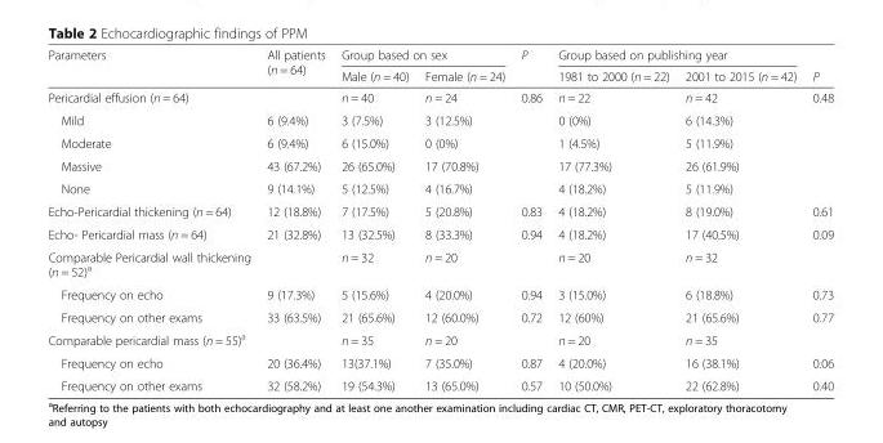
<table><thead><tr><td rowspan="2">Parameters</td><td rowspan="2">All patients (n = 64)</td><td colspan="2">Group based on sex</td><td rowspan="2">P</td><td colspan="2">Group based on publishing year</td><td rowspan="2">P</td></tr><tr><td>Male (n = 40)</td><td>Female (n = 24)</td><td>1981 to 2000 (n = 22)</td><td>2001 to 2015 (n = 42)</td></tr></thead><tbody><tr><td>Pericardial effusion (n = 64)</td><td></td><td>n = 40</td><td>n = 24</td><td>0.86</td><td>n = 22</td><td>n = 42</td><td>0.48</td></tr><tr><td>Mild</td><td>6 (9.4%)</td><td>3 (7.5%)</td><td>3 (12.5%)</td><td></td><td>0 (0%)</td><td>6 (14.3%)</td><td></td></tr><tr><td>Moderate</td><td>6 (9.4%)</td><td>6 (15.0%)</td><td>0 (0%)</td><td></td><td>1 (4.5%)</td><td>5 (11.9%)</td><td></td></tr><tr><td>Massive</td><td>43 (67.2%)</td><td>26 (65.0%)</td><td>17 (70.8%)</td><td></td><td>17 (77.3%)</td><td>26 (61.9%)</td><td></td></tr><tr><td>None</td><td>9 (14.1%)</td><td>5 (12.5%)</td><td>4 (16.7%)</td><td></td><td>4 (18.2%)</td><td>5 (11.9%)</td><td></td></tr><tr><td>Echo-Pericardial thickening (n = 64)</td><td>12 (18.8%)</td><td>7 (17.5%)</td><td>5 (20.8%)</td><td>0.83</td><td>4 (18.2%)</td><td>8 (19.0%)</td><td>0.61</td></tr><tr><td>Echo- Pericardial mass (n = 64)</td><td>21 (32.8%)</td><td>13 (32.5%)</td><td>8 (33.3%)</td><td>0.94</td><td>4 (18.2%)</td><td>17 (40.5%)</td><td>0.09</td></tr><tr><td>Comparable Pericardial wall thickening (n = 52)<sup>a</sup></td><td></td><td>n = 32</td><td>n = 20</td><td></td><td>n = 20</td><td>n = 32</td><td></td></tr><tr><td>Frequency on echo</td><td>9 (17.3%)</td><td>5 (15.6%)</td><td>4 (20.0%)</td><td>0.94</td><td>3 (15.0%)</td><td>6 (18.8%)</td><td>0.73</td></tr><tr><td>Frequency on other exams</td><td>33 (63.5%)</td><td>21 (65.6%)</td><td>12 (60.0%)</td><td>0.72</td><td>12 (60%)</td><td>21 (65.6%)</td><td>0.77</td></tr><tr><td>Comparable pericardial mass (n = 55)<sup>a</sup></td><td></td><td>n = 35</td><td>n = 20</td><td></td><td>n = 20</td><td>n = 35</td><td></td></tr><tr><td>Frequency on echo</td><td>20 (36.4%)</td><td>13(37.1%)</td><td>7 (35.0%)</td><td>0.87</td><td>4 (20.0%)</td><td>16 (38.1%)</td><td>0.06</td></tr><tr><td>Frequency on other exams</td><td>32 (58.2%)</td><td>19 (54.3%)</td><td>13 (65.0%)</td><td>0.57</td><td>10 (50.0%)</td><td>22 (62.8%)</td><td>0.40</td></tr></tbody></table>